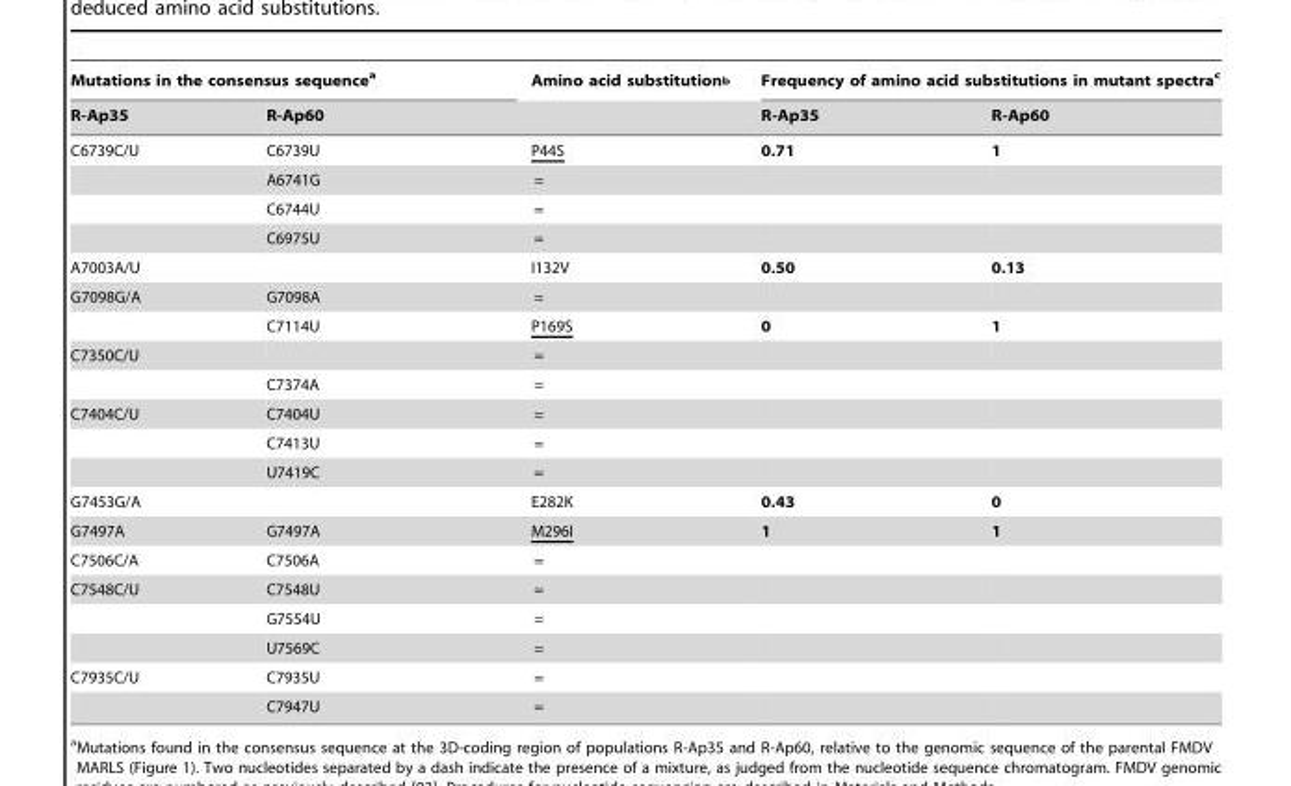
<table><thead><tr><td colspan="2">Mutations in the consensus sequence<sup>a</sup></td><td rowspan="2">Amino acid substitution<sup>b</sup></td><td colspan="2">Frequency of amino acid substitutions in mutant spectra<sup>c</sup></td></tr><tr><td>R-Ap35</td><td>R-Ap60</td><td>R-Ap35</td><td>R-Ap60</td></tr></thead><tbody><tr><td rowspan="4">C6739C/U</td><td>C6739U</td><td>P44S</td><td>0.71</td><td>1</td></tr><tr><td>A6741G</td><td>=</td><td></td><td></td></tr><tr><td>C6744U</td><td>=</td><td></td><td></td></tr><tr><td>C6975U</td><td>=</td><td></td><td></td></tr><tr><td>A7003A/U</td><td></td><td>I132V</td><td>0.50</td><td>0.13</td></tr><tr><td rowspan="2">G7098G/A</td><td>G7098A</td><td>=</td><td></td><td></td></tr><tr><td>C7114U</td><td>P169S</td><td>0</td><td>1</td></tr><tr><td rowspan="2">C7350C/U</td><td></td><td>=</td><td></td><td></td></tr><tr><td>C7374A</td><td>=</td><td></td><td></td></tr><tr><td rowspan="3">C7404C/U</td><td>C7404U</td><td>=</td><td></td><td></td></tr><tr><td>C7413U</td><td>=</td><td></td><td></td></tr><tr><td>U7419C</td><td>=</td><td></td><td></td></tr><tr><td>G7453G/A</td><td></td><td>E282K</td><td>0.43</td><td>0</td></tr><tr><td>G7497A</td><td>G7497A</td><td>M296I</td><td>1</td><td>1</td></tr><tr><td>C7506C/A</td><td>C7506A</td><td>=</td><td></td><td></td></tr><tr><td rowspan="3">C7548C/U</td><td>C7548U</td><td>=</td><td></td><td></td></tr><tr><td>G7554U</td><td>=</td><td></td><td></td></tr><tr><td>U7569C</td><td>=</td><td></td><td></td></tr><tr><td rowspan="2">C7935C/U</td><td>C7935U</td><td>=</td><td></td><td></td></tr><tr><td>C7947U</td><td>=</td><td></td><td></td></tr></tbody></table>